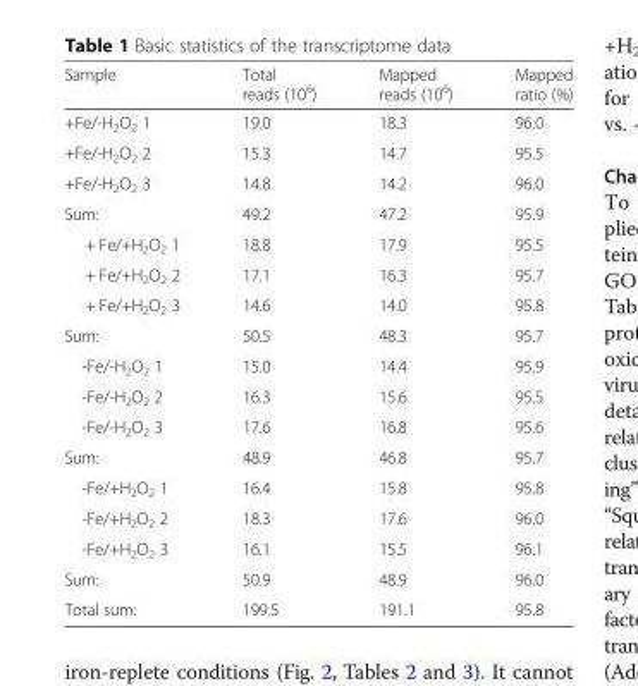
<table><thead><tr><td>Sample</td><td>Total reads (10<sup>6</sup>)</td><td>Mapped reads (10<sup>6</sup>)</td><td>Mapped ratio (%)</td></tr></thead><tbody><tr><td>+Fe/-H<sub>2</sub>O<sub>2</sub> 1</td><td>19.0</td><td>18.3</td><td>96.0</td></tr><tr><td>+Fe/-H<sub>2</sub>O<sub>2</sub> 2</td><td>15.3</td><td>14.7</td><td>95.5</td></tr><tr><td>+Fe/-H<sub>2</sub>O<sub>2</sub> 3</td><td>14.8</td><td>14.2</td><td>96.0</td></tr><tr><td>Sum:</td><td>49.2</td><td>47.2</td><td>95.9</td></tr><tr><td>+ Fe/+H<sub>2</sub>O<sub>2</sub> 1</td><td>18.8</td><td>17.9</td><td>95.5</td></tr><tr><td>+ Fe/+H<sub>2</sub>O<sub>2</sub> 2</td><td>17.1</td><td>16.3</td><td>95.7</td></tr><tr><td>+ Fe/+H<sub>2</sub>O<sub>2</sub> 3</td><td>14.6</td><td>14.0</td><td>95.8</td></tr><tr><td>Sum:</td><td>50.5</td><td>48.3</td><td>95.7</td></tr><tr><td>-Fe/-H<sub>2</sub>O<sub>2</sub> 1</td><td>15.0</td><td>14.4</td><td>95.9</td></tr><tr><td>-Fe/-H<sub>2</sub>O<sub>2</sub> 2</td><td>16.3</td><td>15.6</td><td>95.5</td></tr><tr><td>-Fe/-H<sub>2</sub>O<sub>2</sub> 3</td><td>17.6</td><td>16.8</td><td>95.6</td></tr><tr><td>Sum:</td><td>48.9</td><td>46.8</td><td>95.7</td></tr><tr><td>-Fe/+H<sub>2</sub>O<sub>2</sub> 1</td><td>16.4</td><td>15.8</td><td>95.8</td></tr><tr><td>-Fe/+H<sub>2</sub>O<sub>2</sub> 2</td><td>18.3</td><td>17.6</td><td>96.0</td></tr><tr><td>-Fe/+H<sub>2</sub>O<sub>2</sub> 3</td><td>16.1</td><td>15.5</td><td>96.1</td></tr><tr><td>Sum:</td><td>50.9</td><td>48.9</td><td>96.0</td></tr><tr><td>Total sum:</td><td>199.5</td><td>191.1</td><td>95.8</td></tr></tbody></table>